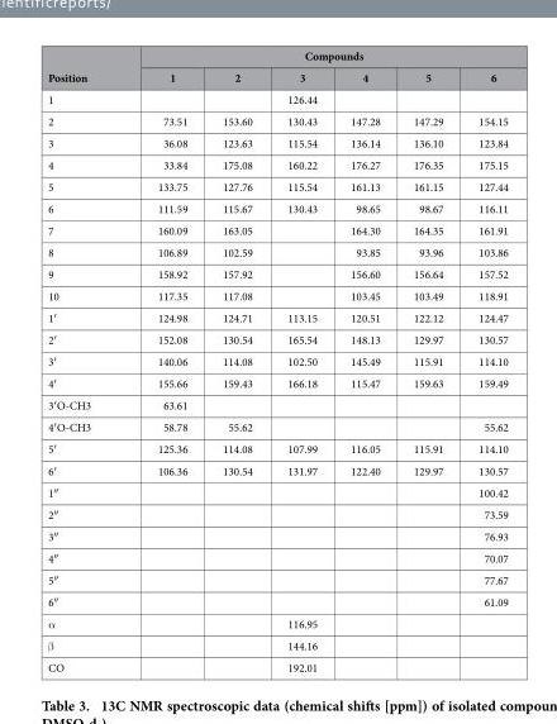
<table><thead><tr><td rowspan="2">Position</td><td colspan="6">Compounds</td></tr><tr><td>1</td><td>2</td><td>3</td><td>4</td><td>5</td><td>6</td></tr></thead><tbody><tr><td>1</td><td></td><td></td><td>126.44</td><td></td><td></td><td></td></tr><tr><td>2</td><td>73.51</td><td>153.60</td><td>130.43</td><td>147.28</td><td>147.29</td><td>154.15</td></tr><tr><td>3</td><td>36.08</td><td>123.63</td><td>115.54</td><td>136.14</td><td>136.10</td><td>123.84</td></tr><tr><td>4</td><td>33.84</td><td>175.08</td><td>160.22</td><td>176.27</td><td>176.35</td><td>175.15</td></tr><tr><td>5</td><td>133.75</td><td>127.76</td><td>115.54</td><td>161.13</td><td>161.15</td><td>127.44</td></tr><tr><td>6</td><td>111.59</td><td>115.67</td><td>130.43</td><td>98.65</td><td>98.67</td><td>116.11</td></tr><tr><td>7</td><td>160.09</td><td>163.05</td><td></td><td>164.30</td><td>164.35</td><td>161.91</td></tr><tr><td>8</td><td>106.89</td><td>102.59</td><td></td><td>93.85</td><td>93.96</td><td>103.86</td></tr><tr><td>9</td><td>158.92</td><td>157.92</td><td></td><td>156.60</td><td>156.64</td><td>157.52</td></tr><tr><td>10</td><td>117.35</td><td>117.08</td><td></td><td>103.45</td><td>103.49</td><td>118.91</td></tr><tr><td>1′</td><td>124.98</td><td>124.71</td><td>113.15</td><td>120.51</td><td>122.12</td><td>124.47</td></tr><tr><td>2′</td><td>152.08</td><td>130.54</td><td>165.54</td><td>148.13</td><td>129.97</td><td>130.57</td></tr><tr><td>3′</td><td>140.06</td><td>114.08</td><td>102.50</td><td>145.49</td><td>115.91</td><td>114.10</td></tr><tr><td>4′</td><td>155.66</td><td>159.43</td><td>166.18</td><td>115.47</td><td>159.63</td><td>159.49</td></tr><tr><td>3′ O-CH3</td><td>63.61</td><td></td><td></td><td></td><td></td><td></td></tr><tr><td>4′ O-CH3</td><td>58.78</td><td>55.62</td><td></td><td></td><td></td><td>55.62</td></tr><tr><td>5′</td><td>125.36</td><td>114.08</td><td>107.99</td><td>116.05</td><td>115.91</td><td>114.10</td></tr><tr><td>6′</td><td>106.36</td><td>130.54</td><td>131.97</td><td>122.40</td><td>129.97</td><td>130.57</td></tr><tr><td>1″</td><td></td><td></td><td></td><td></td><td></td><td>100.42</td></tr><tr><td>2″</td><td></td><td></td><td></td><td></td><td></td><td>73.59</td></tr><tr><td>3″</td><td></td><td></td><td></td><td></td><td></td><td>76.93</td></tr><tr><td>4″</td><td></td><td></td><td></td><td></td><td></td><td>70.07</td></tr><tr><td>5″</td><td></td><td></td><td></td><td></td><td></td><td>77.67</td></tr><tr><td>6″</td><td></td><td></td><td></td><td></td><td></td><td>61.09</td></tr><tr><td>α</td><td></td><td></td><td>116.95</td><td></td><td></td><td></td></tr><tr><td>β</td><td></td><td></td><td>144.16</td><td></td><td></td><td></td></tr><tr><td>CO</td><td></td><td></td><td>192.01</td><td></td><td></td><td></td></tr></tbody></table>